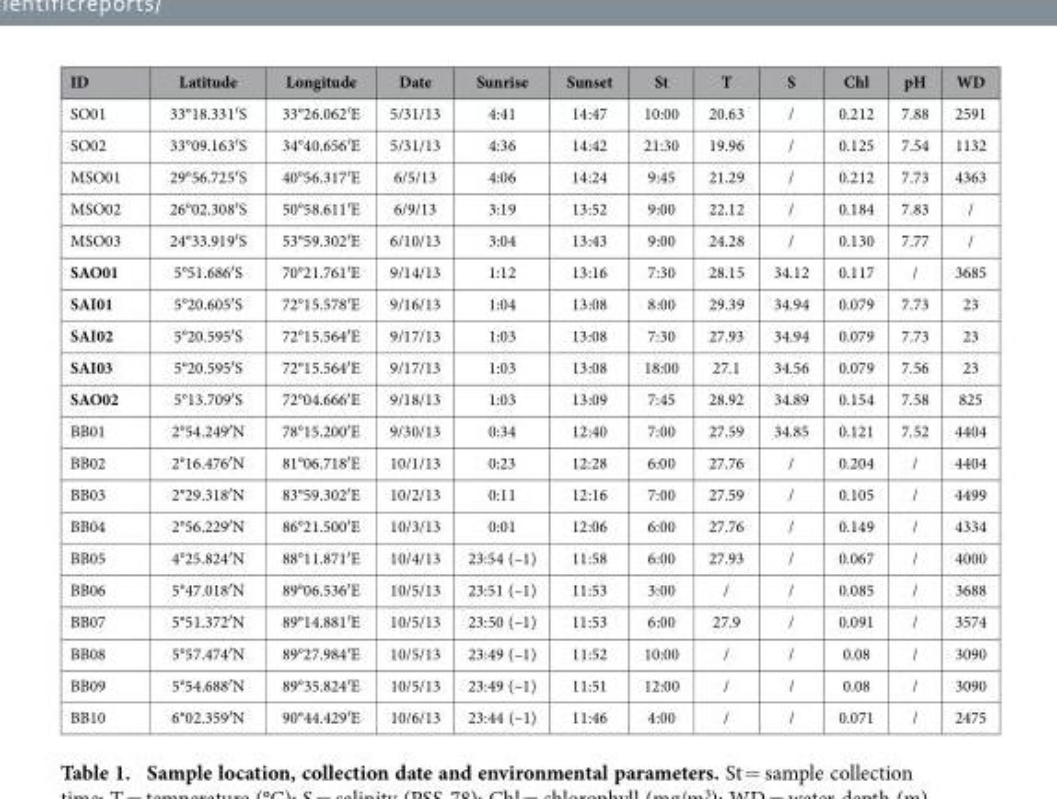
<table><thead><tr><td>ID</td><td>Latitude</td><td>Longitude</td><td>Date</td><td>Sunrise</td><td>Sunset</td><td>St</td><td>T</td><td>S</td><td>Chl</td><td>pH</td><td>WD</td></tr></thead><tbody><tr><td>SO01</td><td>33°18.331′S</td><td>33°26.062′E</td><td>5/31/13</td><td>4:41</td><td>14:47</td><td>10:00</td><td>20.63</td><td>/</td><td>0.212</td><td>7.88</td><td>2591</td></tr><tr><td>SO02</td><td>33°09.163′S</td><td>34°40.656′E</td><td>5/31/13</td><td>4:36</td><td>14:42</td><td>21:30</td><td>19.96</td><td>/</td><td>0.125</td><td>7.54</td><td>1132</td></tr><tr><td>MSO01</td><td>29°56.725′S</td><td>40°56.317′E</td><td>6/5/13</td><td>4:06</td><td>14:24</td><td>9:45</td><td>21.29</td><td>/</td><td>0.212</td><td>7.73</td><td>4363</td></tr><tr><td>MSO02</td><td>26°02.308′S</td><td>50°58.611′E</td><td>6/9/13</td><td>3:19</td><td>13:52</td><td>9:00</td><td>22.12</td><td>/</td><td>0.184</td><td>7.83</td><td>/</td></tr><tr><td>MSO03</td><td>24°33.919′S</td><td>53°59.302′E</td><td>6/10/13</td><td>3:04</td><td>13:43</td><td>9:00</td><td>24.28</td><td>/</td><td>0.130</td><td>7.77</td><td>/</td></tr><tr><td>SAO01</td><td>5°51.686′S</td><td>70°21.761′E</td><td>9/14/13</td><td>1:12</td><td>13:16</td><td>7:30</td><td>28.15</td><td>34.12</td><td>0.117</td><td>/</td><td>3685</td></tr><tr><td>SAI01</td><td>5°20.605′S</td><td>72°15.578′E</td><td>9/16/13</td><td>1:04</td><td>13:08</td><td>8:00</td><td>29.39</td><td>34.94</td><td>0.079</td><td>7.73</td><td>23</td></tr><tr><td>SAI02</td><td>5°20.595′S</td><td>72°15.564′E</td><td>9/17/13</td><td>1:03</td><td>13:08</td><td>7:30</td><td>27.93</td><td>34.94</td><td>0.079</td><td>7.73</td><td>23</td></tr><tr><td>SAI03</td><td>5°20.595′S</td><td>72°15.564′E</td><td>9/17/13</td><td>1:03</td><td>13:08</td><td>18:00</td><td>27.1</td><td>34.56</td><td>0.079</td><td>7.56</td><td>23</td></tr><tr><td>SAO02</td><td>5°13.709′S</td><td>72°04.666′E</td><td>9/18/13</td><td>1:03</td><td>13:09</td><td>7:45</td><td>28.92</td><td>34.89</td><td>0.154</td><td>7.58</td><td>825</td></tr><tr><td>BB01</td><td>2°54.249′N</td><td>78°15.200′E</td><td>9/30/13</td><td>0:34</td><td>12:40</td><td>7:00</td><td>27.59</td><td>34.85</td><td>0.121</td><td>7.52</td><td>4404</td></tr><tr><td>BB02</td><td>2°16.476′N</td><td>81°06.718′E</td><td>10/1/13</td><td>0:23</td><td>12:28</td><td>6:00</td><td>27.76</td><td>/</td><td>0.204</td><td>/</td><td>4404</td></tr><tr><td>BB03</td><td>2°29.318′N</td><td>83°59.302′E</td><td>10/2/13</td><td>0:11</td><td>12:16</td><td>7:00</td><td>27.59</td><td>/</td><td>0.105</td><td>/</td><td>4499</td></tr><tr><td>BB04</td><td>2°56.229′N</td><td>86°21.500′E</td><td>10/3/13</td><td>0:01</td><td>12:06</td><td>6:00</td><td>27.76</td><td>/</td><td>0.149</td><td>/</td><td>4334</td></tr><tr><td>BB05</td><td>4°25.824′N</td><td>88°11.871′E</td><td>10/4/13</td><td>23:54 (–1)</td><td>11:58</td><td>6:00</td><td>27.93</td><td>/</td><td>0.067</td><td>/</td><td>4000</td></tr><tr><td>BB06</td><td>5°47.018′N</td><td>89°06.536′E</td><td>10/5/13</td><td>23:51 (–1)</td><td>11:53</td><td>3:00</td><td>/</td><td>/</td><td>0.085</td><td>/</td><td>3688</td></tr><tr><td>BB07</td><td>5°51.372′N</td><td>89°14.881′E</td><td>10/5/13</td><td>23:50 (–1)</td><td>11:53</td><td>6:00</td><td>27.9</td><td>/</td><td>0.091</td><td>/</td><td>3574</td></tr><tr><td>BB08</td><td>5°57.474′N</td><td>89°27.984′E</td><td>10/5/13</td><td>23:49 (–1)</td><td>11:52</td><td>10:00</td><td>/</td><td>/</td><td>0.08</td><td>/</td><td>3090</td></tr><tr><td>BB09</td><td>5°54.688′N</td><td>89°35.824′E</td><td>10/5/13</td><td>23:49 (–1)</td><td>11:51</td><td>12:00</td><td>/</td><td>/</td><td>0.08</td><td>/</td><td>3090</td></tr><tr><td>BB10</td><td>6°02.359′N</td><td>90°44.429′E</td><td>10/6/13</td><td>23:44 (–1)</td><td>11:46</td><td>4:00</td><td>/</td><td>/</td><td>0.071</td><td>/</td><td>2475</td></tr></tbody></table>